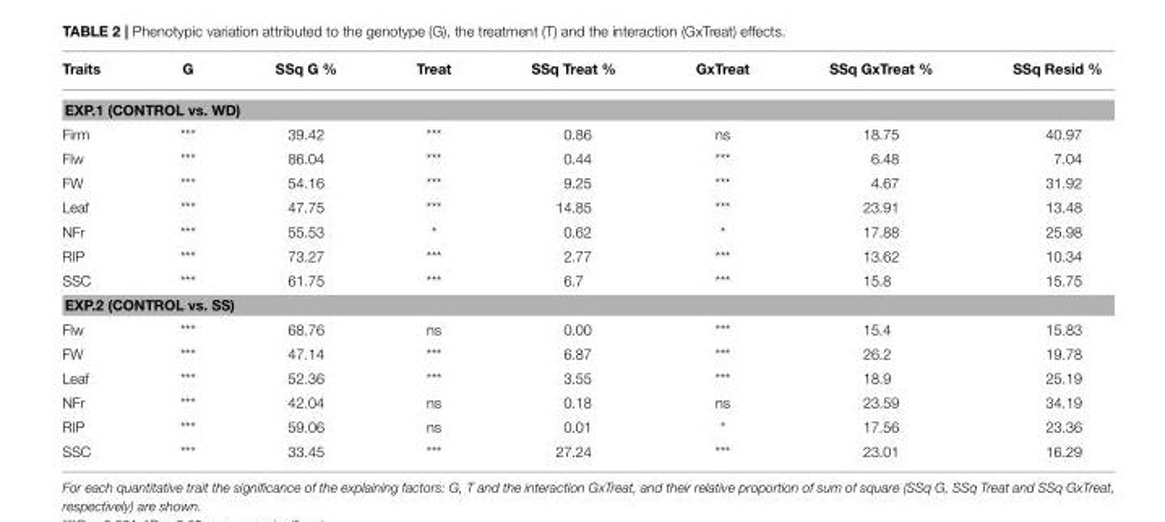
<table><thead><tr><td>Traits</td><td>G</td><td>SSq G %</td><td>Treat</td><td>SSq Treat %</td><td>GxTreat</td><td>SSq GxTreat %</td><td>SSq Resid %</td></tr></thead><tbody><tr><td colspan="8">EXP.1 (CONTROL vs. WD)</td></tr><tr><td>Firm</td><td>***</td><td>39.42</td><td>***</td><td>0.86</td><td>ns</td><td>18.75</td><td>40.97</td></tr><tr><td>Flw</td><td>***</td><td>86.04</td><td>***</td><td>0.44</td><td>***</td><td>6.48</td><td>7.04</td></tr><tr><td>FW</td><td>***</td><td>54.16</td><td>***</td><td>9.25</td><td>***</td><td>4.67</td><td>31.92</td></tr><tr><td>Leaf</td><td>***</td><td>47.75</td><td>***</td><td>14.85</td><td>***</td><td>23.91</td><td>13.48</td></tr><tr><td>NFr</td><td>***</td><td>55.53</td><td>*</td><td>0.62</td><td>*</td><td>17.88</td><td>25.98</td></tr><tr><td>RIP</td><td>***</td><td>73.27</td><td>***</td><td>2.77</td><td>***</td><td>13.62</td><td>10.34</td></tr><tr><td>SSC</td><td>***</td><td>61.75</td><td>***</td><td>6.7</td><td>***</td><td>15.8</td><td>15.75</td></tr><tr><td colspan="8">EXP.2 (CONTROL vs. SS)</td></tr><tr><td>Flw</td><td>***</td><td>68.76</td><td>ns</td><td>0.00</td><td>***</td><td>15.4</td><td>15.83</td></tr><tr><td>FW</td><td>***</td><td>47.14</td><td>***</td><td>6.87</td><td>***</td><td>26.2</td><td>19.78</td></tr><tr><td>Leaf</td><td>***</td><td>52.36</td><td>***</td><td>3.55</td><td>***</td><td>18.9</td><td>25.19</td></tr><tr><td>NFr</td><td>***</td><td>42.04</td><td>ns</td><td>0.18</td><td>ns</td><td>23.59</td><td>34.19</td></tr><tr><td>RIP</td><td>***</td><td>59.06</td><td>ns</td><td>0.01</td><td>*</td><td>17.56</td><td>23.36</td></tr><tr><td>SSC</td><td>***</td><td>33.45</td><td>***</td><td>27.24</td><td>***</td><td>23.01</td><td>16.29</td></tr></tbody></table>